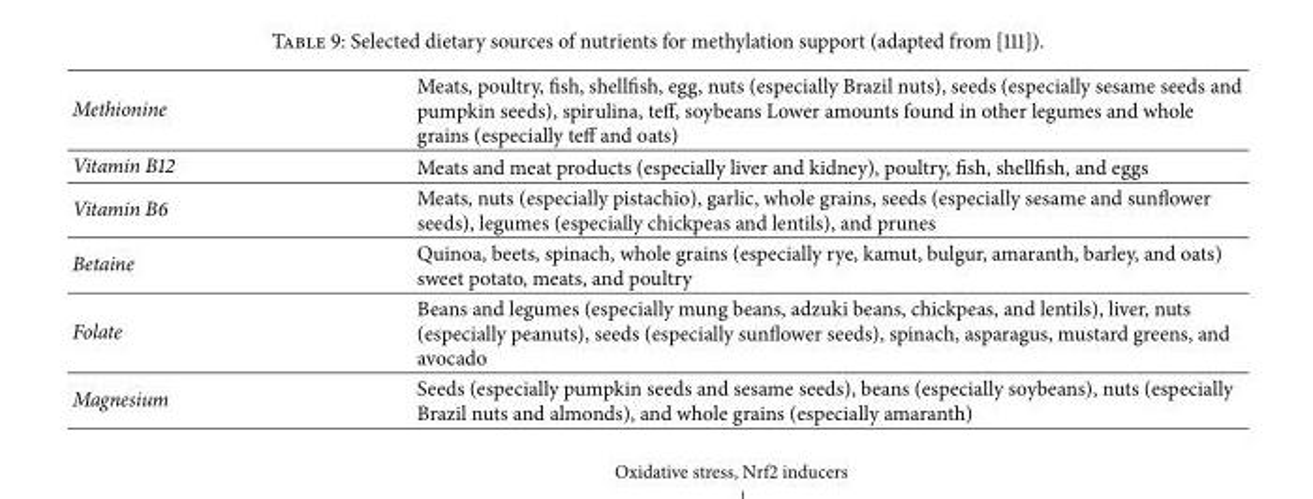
<table><tbody><tr><td>Methionine</td><td>Meats, poultry, fish, shellfish, egg, nuts (especially Brazil nuts), seeds (especially sesame seeds and pumpkin seeds), spirulina, teff, soybeans Lower amounts found in other legumes and whole grains (especially teff and oats)</td></tr><tr><td>Vitamin B12</td><td>Meats and meat products (especially liver and kidney), poultry, fish, shellfish, and eggs</td></tr><tr><td>Vitamin B6</td><td>Meats, nuts (especially pistachio), garlic, whole grains, seeds (especially sesame and sunflower seeds), legumes (especially chickpeas and lentils), and prunes</td></tr><tr><td>Betaine</td><td>Quinoa, beets, spinach, whole grains (especially rye, kamut, bulgur, amaranth, barley, and oats) sweet potato, meats, and poultry</td></tr><tr><td>Folate</td><td>Beans and legumes (especially mung beans, adzuki beans, chickpeas, and lentils), liver, nuts (especially peanuts), seeds (especially sunflower seeds), spinach, asparagus, mustard greens, and avocado</td></tr><tr><td>Magnesium</td><td>Seeds (especially pumpkin seeds and sesame seeds), beans (especially soybeans), nuts (especially Brazil nuts and almonds), and whole grains (especially amaranth)</td></tr></tbody></table>